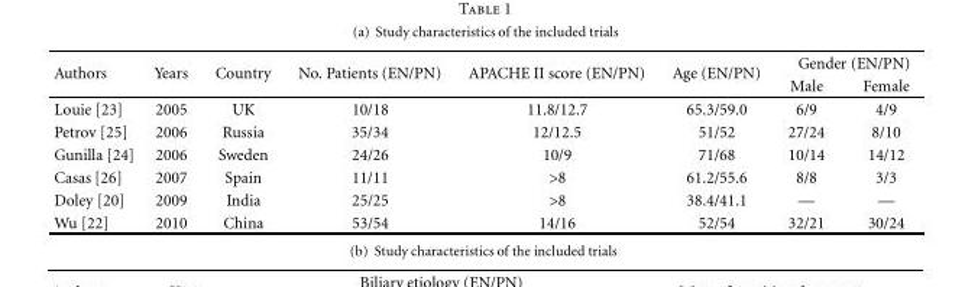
<table><thead><tr><td rowspan="2">Authors</td><td rowspan="2">Years</td><td rowspan="2">Country</td><td rowspan="2">No. Patients (EN/PN)</td><td rowspan="2">APACHE II score (EN/PN)</td><td rowspan="2">Age (EN/PN)</td><td colspan="2">Gender (EN/PN)</td></tr><tr><td>Male</td><td>Female</td></tr></thead><tbody><tr><td>Louie [23]</td><td>2005</td><td>UK</td><td>10/18</td><td>11.8/12.7</td><td>65.3/59.0</td><td>6/9</td><td>4/9</td></tr><tr><td>Petrov [25]</td><td>2006</td><td>Russia</td><td>35/34</td><td>12/12.5</td><td>51/52</td><td>27/24</td><td>8/10</td></tr><tr><td>Gunilla [24]</td><td>2006</td><td>Sweden</td><td>24/26</td><td>10/9</td><td>71/68</td><td>10/14</td><td>14/12</td></tr><tr><td>Casas [26]</td><td>2007</td><td>Spain</td><td>11/11</td><td>&gt;8</td><td>61.2/55.6</td><td>8/8</td><td>3/3</td></tr><tr><td>Doley [20]</td><td>2009</td><td>India</td><td>25/25</td><td>&gt;8</td><td>38.4/41.1</td><td>—</td><td>—</td></tr><tr><td>Wu [22]</td><td>2010</td><td>China</td><td>53/54</td><td>14/16</td><td>52/54</td><td>32/21</td><td>30/24</td></tr></tbody></table>